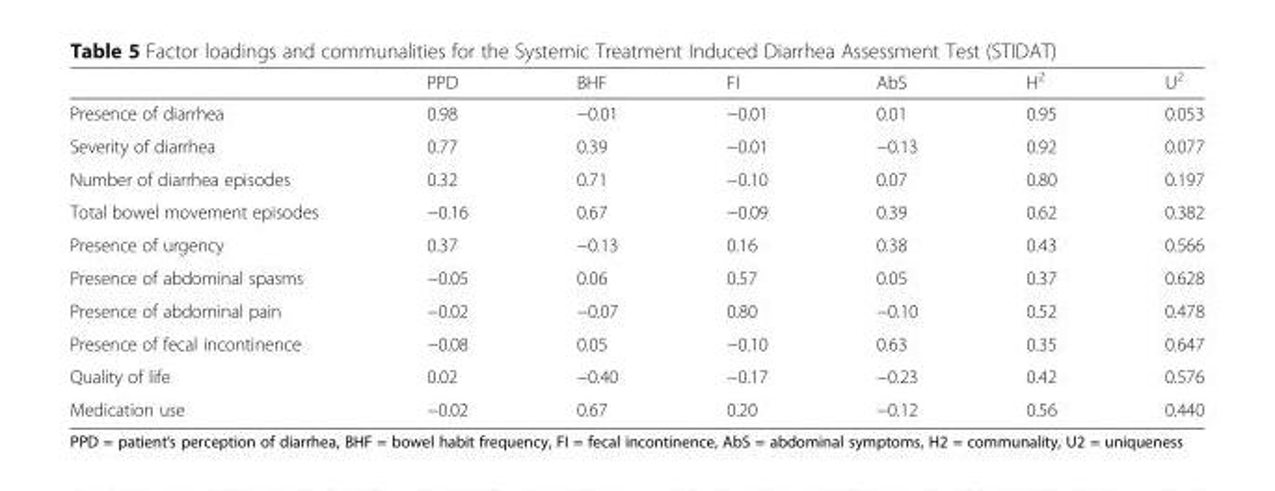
<table><thead><tr><td></td><td>PPD</td><td>BHF</td><td>FI</td><td>AbS</td><td>H<sup>2</sup></td><td>U<sup>2</sup></td></tr></thead><tbody><tr><td>Presence of diarrhea</td><td>0.98</td><td>−0.01</td><td>−0.01</td><td>0.01</td><td>0.95</td><td>0.053</td></tr><tr><td>Severity of diarrhea</td><td>0.77</td><td>0.39</td><td>−0.01</td><td>−0.13</td><td>0.92</td><td>0.077</td></tr><tr><td>Number of diarrhea episodes</td><td>0.32</td><td>0.71</td><td>−0.10</td><td>0.07</td><td>0.80</td><td>0.197</td></tr><tr><td>Total bowel movement episodes</td><td>−0.16</td><td>0.67</td><td>−0.09</td><td>0.39</td><td>0.62</td><td>0.382</td></tr><tr><td>Presence of urgency</td><td>0.37</td><td>−0.13</td><td>0.16</td><td>0.38</td><td>0.43</td><td>0.566</td></tr><tr><td>Presence of abdominal spasms</td><td>−0.05</td><td>0.06</td><td>0.57</td><td>0.05</td><td>0.37</td><td>0.628</td></tr><tr><td>Presence of abdominal pain</td><td>−0.02</td><td>−0.07</td><td>0.80</td><td>−0.10</td><td>0.52</td><td>0.478</td></tr><tr><td>Presence of fecal incontinence</td><td>−0.08</td><td>0.05</td><td>−0.10</td><td>0.63</td><td>0.35</td><td>0.647</td></tr><tr><td>Quality of life</td><td>0.02</td><td>−0.40</td><td>−0.17</td><td>−0.23</td><td>0.42</td><td>0.576</td></tr><tr><td>Medication use</td><td>−0.02</td><td>0.67</td><td>0.20</td><td>−0.12</td><td>0.56</td><td>0.440</td></tr></tbody></table>